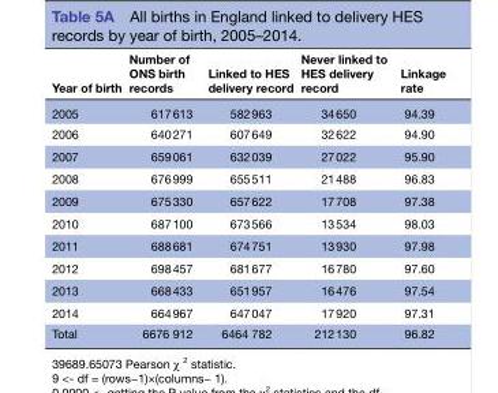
<table><thead><tr><td>Year of birth</td><td>Number of ONS birth records</td><td>Linked to HES delivery record</td><td>Never linked to HES delivery record</td><td>Linkage rate</td></tr></thead><tbody><tr><td>2005</td><td>617 613</td><td>582 963</td><td>34 650</td><td>94.39</td></tr><tr><td>2006</td><td>640 271</td><td>607 649</td><td>32 622</td><td>94.90</td></tr><tr><td>2007</td><td>659 061</td><td>632 039</td><td>27 022</td><td>95.90</td></tr><tr><td>2008</td><td>676 999</td><td>655 511</td><td>21 488</td><td>96.83</td></tr><tr><td>2009</td><td>675 330</td><td>657 622</td><td>17 708</td><td>97.38</td></tr><tr><td>2010</td><td>687 100</td><td>673 566</td><td>13 534</td><td>98.03</td></tr><tr><td>2011</td><td>688 681</td><td>674 751</td><td>13 930</td><td>97.98</td></tr><tr><td>2012</td><td>698 457</td><td>681 677</td><td>16 780</td><td>97.60</td></tr><tr><td>2013</td><td>668 433</td><td>651 957</td><td>16 476</td><td>97.54</td></tr><tr><td>2014</td><td>664 967</td><td>647 047</td><td>17 920</td><td>97.31</td></tr><tr><td>Total</td><td>6676 912</td><td>6464 782</td><td>212 130</td><td>96.82</td></tr></tbody></table>